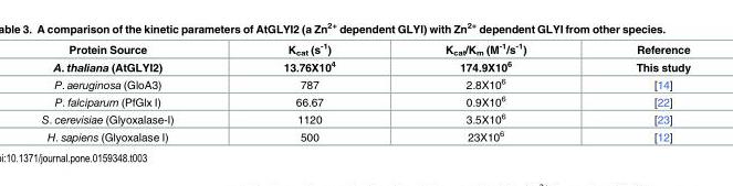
<table><thead><tr><td>Protein Source</td><td>K<sub>cat</sub> (s<sup>-1</sup>)</td><td>K<sub>cat</sub>/K<sub>m</sub> (M<sup>-1</sup>/s<sup>-1</sup>)</td><td>Reference</td></tr></thead><tbody><tr><td>A. thaliana (AtGLYI2)</td><td>13.76X10<sup>4</sup></td><td>174.9X10<sup>6</sup></td><td>This study</td></tr><tr><td>P. aeruginosa (GloA3)</td><td>787</td><td>2.8X10<sup>6</sup></td><td>[14]</td></tr><tr><td>P. falciparum (PfGlx I)</td><td>66.67</td><td>0.9X10<sup>6</sup></td><td>[22]</td></tr><tr><td>S. cerevisiae (Glyoxalase-I)</td><td>1120</td><td>3.5X10<sup>6</sup></td><td>[23]</td></tr><tr><td>H. sapiens (Glyoxalase I)</td><td>500</td><td>23X10<sup>6</sup></td><td>[12]</td></tr></tbody></table>